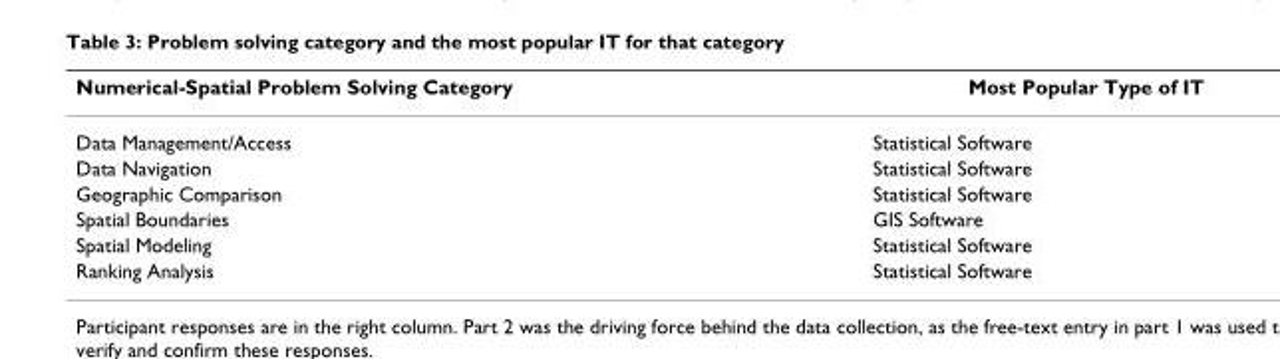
<table><thead><tr><td>Numerical-Spatial Problem Solving Category</td><td>Most Popular Type of IT</td></tr></thead><tbody><tr><td>Data Management/Access</td><td>Statistical Software</td></tr><tr><td>Data Navigation</td><td>Statistical Software</td></tr><tr><td>Geographic Comparison</td><td>Statistical Software</td></tr><tr><td>Spatial Boundaries</td><td>GIS Software</td></tr><tr><td>Spatial Modeling</td><td>Statistical Software</td></tr><tr><td>Ranking Analysis</td><td>Statistical Software</td></tr></tbody></table>